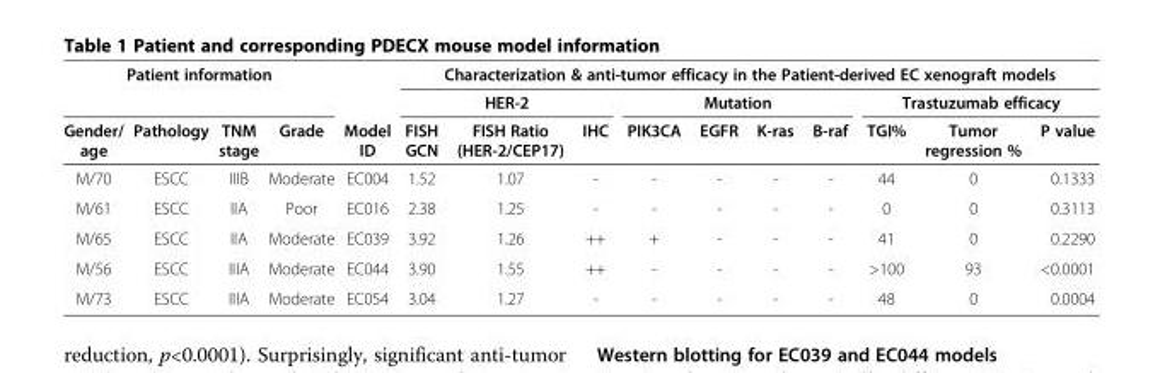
<table><thead><tr><td colspan="4">Patient information</td><td rowspan="3">Model ID</td><td colspan="10">Characterization &amp; anti-tumor efficacy in the Patient-derived EC xenograft models</td></tr><tr><td rowspan="2">Gender/ age</td><td rowspan="2">Pathology</td><td rowspan="2">TNM stage</td><td rowspan="2">Grade</td><td colspan="3">HER-2</td><td colspan="4">Mutation</td><td colspan="3">Trastuzumab efficacy</td></tr><tr><td>FISH GCN</td><td>FISH Ratio (HER-2/CEP17)</td><td>IHC</td><td>PIK3CA</td><td>EGFR</td><td>K-ras</td><td>B-raf</td><td>TGI%</td><td>Tumor regression %</td><td>P value</td></tr></thead><tbody><tr><td>M/70</td><td>ESCC</td><td>IIIB</td><td>Moderate</td><td>EC004</td><td>1.52</td><td>1.07</td><td>-</td><td>-</td><td>-</td><td>-</td><td>-</td><td>44</td><td>0</td><td>0.1333</td></tr><tr><td>M/61</td><td>ESCC</td><td>IIA</td><td>Poor</td><td>EC016</td><td>2.38</td><td>1.25</td><td>-</td><td>-</td><td>-</td><td>-</td><td>-</td><td>0</td><td>0</td><td>0.3113</td></tr><tr><td>M/65</td><td>ESCC</td><td>IIA</td><td>Moderate</td><td>EC039</td><td>3.92</td><td>1.26</td><td>++</td><td>+</td><td>-</td><td>-</td><td>-</td><td>41</td><td>0</td><td>0.2290</td></tr><tr><td>M/56</td><td>ESCC</td><td>IIIA</td><td>Moderate</td><td>EC044</td><td>3.90</td><td>1.55</td><td>++</td><td>-</td><td>-</td><td>-</td><td>-</td><td>&gt;100</td><td>93</td><td>&lt;0.0001</td></tr><tr><td>M/73</td><td>ESCC</td><td>IIIA</td><td>Moderate</td><td>EC054</td><td>3.04</td><td>1.27</td><td>-</td><td>-</td><td>-</td><td>-</td><td>-</td><td>48</td><td>0</td><td>0.0004</td></tr></tbody></table>